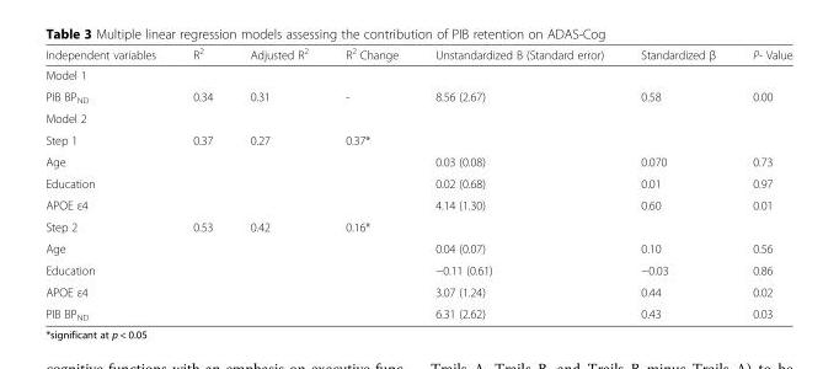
<table><thead><tr><td>Independent variables</td><td>R<sup>2</sup></td><td>Adjusted R<sup>2</sup></td><td>R<sup>2</sup> Change</td><td>Unstandardized B (Standard error)</td><td>Standardized β</td><td>P- Value</td></tr></thead><tbody><tr><td colspan="7">Model 1</td></tr><tr><td>PIB BP<sub>ND</sub></td><td>0.34</td><td>0.31</td><td>-</td><td>8.56 (2.67)</td><td>0.58</td><td>0.00</td></tr><tr><td colspan="7">Model 2</td></tr><tr><td>Step 1</td><td>0.37</td><td>0.27</td><td>0.37*</td><td></td><td></td><td></td></tr><tr><td>Age</td><td></td><td></td><td></td><td>0.03 (0.08)</td><td>0.070</td><td>0.73</td></tr><tr><td>Education</td><td></td><td></td><td></td><td>0.02 (0.68)</td><td>0.01</td><td>0.97</td></tr><tr><td>APOE ε4</td><td></td><td></td><td></td><td>4.14 (1.30)</td><td>0.60</td><td>0.01</td></tr><tr><td>Step 2</td><td>0.53</td><td>0.42</td><td>0.16*</td><td></td><td></td><td></td></tr><tr><td>Age</td><td></td><td></td><td></td><td>0.04 (0.07)</td><td>0.10</td><td>0.56</td></tr><tr><td>Education</td><td></td><td></td><td></td><td>−0.11 (0.61)</td><td>−0.03</td><td>0.86</td></tr><tr><td>APOE ε4</td><td></td><td></td><td></td><td>3.07 (1.24)</td><td>0.44</td><td>0.02</td></tr><tr><td>PIB BP<sub>ND</sub></td><td></td><td></td><td></td><td>6.31 (2.62)</td><td>0.43</td><td>0.03</td></tr></tbody></table>